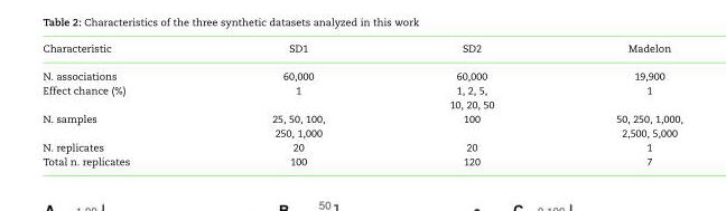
<table><thead><tr><td>Characteristic</td><td>SD1</td><td>SD2</td><td>Madelon</td></tr></thead><tbody><tr><td>N. associations</td><td>60,000</td><td>60,000</td><td>19,900</td></tr><tr><td rowspan="2">Effect chance (%)</td><td>1</td><td>1, 2, 5,</td><td>1</td></tr><tr><td></td><td>10, 20, 50</td><td></td></tr><tr><td rowspan="2">N. samples</td><td>25, 50, 100,</td><td>100</td><td>50, 250, 1,000,</td></tr><tr><td>250, 1,000</td><td></td><td>2,500, 5,000</td></tr><tr><td>N. replicates</td><td>20</td><td>20</td><td>1</td></tr><tr><td>Total n. replicates</td><td>100</td><td>120</td><td>7</td></tr></tbody></table>